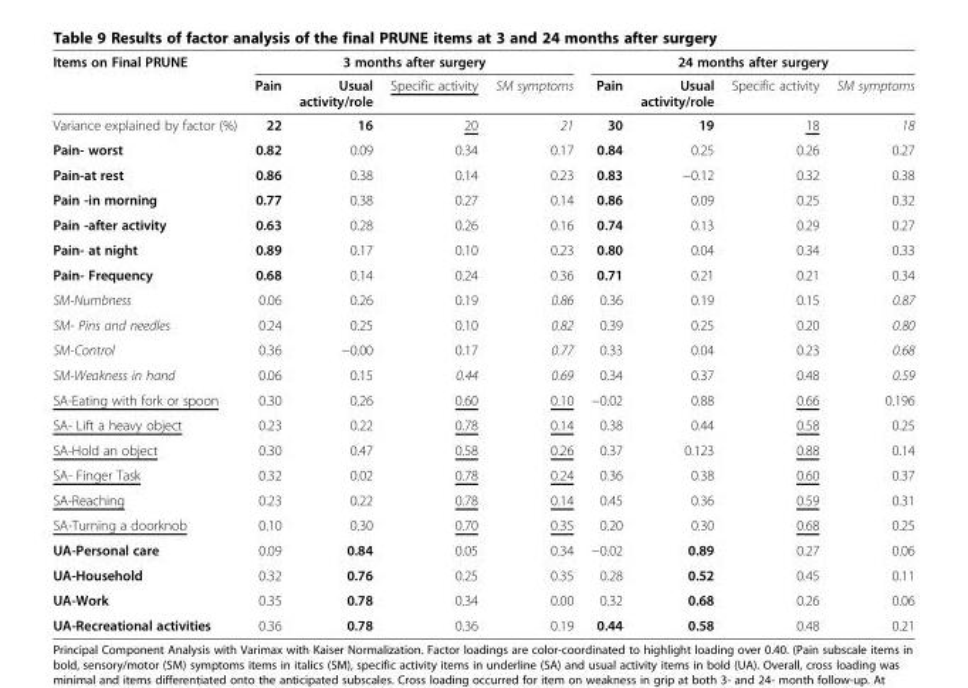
<table><thead><tr><td rowspan="2">Items on Final PRUNE</td><td colspan="4">3 months after surgery</td><td colspan="4">24 months after surgery</td></tr><tr><td>Pain</td><td>Usual activity/role</td><td>Specific activity</td><td>SM symptoms</td><td>Pain</td><td>Usual activity/role</td><td>Specific activity</td><td>SM symptoms</td></tr></thead><tbody><tr><td>Variance explained by factor (%)</td><td>22</td><td>16</td><td>20</td><td>21</td><td>30</td><td>19</td><td>18</td><td>18</td></tr><tr><td>Pain- worst</td><td>0.82</td><td>0.09</td><td>0.34</td><td>0.17</td><td>0.84</td><td>0.25</td><td>0.26</td><td>0.27</td></tr><tr><td>Pain-at rest</td><td>0.86</td><td>0.38</td><td>0.14</td><td>0.23</td><td>0.83</td><td>−0.12</td><td>0.32</td><td>0.38</td></tr><tr><td>Pain -in morning</td><td>0.77</td><td>0.38</td><td>0.27</td><td>0.14</td><td>0.86</td><td>0.09</td><td>0.25</td><td>0.32</td></tr><tr><td>Pain -after activity</td><td>0.63</td><td>0.28</td><td>0.26</td><td>0.16</td><td>0.74</td><td>0.13</td><td>0.29</td><td>0.27</td></tr><tr><td>Pain- at night</td><td>0.89</td><td>0.17</td><td>0.10</td><td>0.23</td><td>0.80</td><td>0.04</td><td>0.34</td><td>0.33</td></tr><tr><td>Pain- Frequency</td><td>0.68</td><td>0.14</td><td>0.24</td><td>0.36</td><td>0.71</td><td>0.21</td><td>0.21</td><td>0.34</td></tr><tr><td>SM-Numbness</td><td>0.06</td><td>0.26</td><td>0.19</td><td>0.86</td><td>0.36</td><td>0.19</td><td>0.15</td><td>0.87</td></tr><tr><td>SM- Pins and needles</td><td>0.24</td><td>0.25</td><td>0.10</td><td>0.82</td><td>0.39</td><td>0.25</td><td>0.20</td><td>0.80</td></tr><tr><td>SM-Control</td><td>0.36</td><td>−0.00</td><td>0.17</td><td>0.77</td><td>0.33</td><td>0.04</td><td>0.23</td><td>0.68</td></tr><tr><td>SM-Weakness in hand</td><td>0.06</td><td>0.15</td><td>0.44</td><td>0.69</td><td>0.34</td><td>0.37</td><td>0.48</td><td>0.59</td></tr><tr><td>SA-Eating with fork or spoon</td><td>0.30</td><td>0.26</td><td>0.60</td><td>0.10</td><td>−0.02</td><td>0.88</td><td>0.66</td><td>0.196</td></tr><tr><td>SA- Lift a heavy object</td><td>0.23</td><td>0.22</td><td>0.78</td><td>0.14</td><td>0.38</td><td>0.44</td><td>0.58</td><td>0.25</td></tr><tr><td>SA-Hold an object</td><td>0.30</td><td>0.47</td><td>0.58</td><td>0.26</td><td>0.37</td><td>0.123</td><td>0.88</td><td>0.14</td></tr><tr><td>SA- Finger Task</td><td>0.32</td><td>0.02</td><td>0.78</td><td>0.24</td><td>0.36</td><td>0.38</td><td>0.60</td><td>0.37</td></tr><tr><td>SA-Reaching</td><td>0.23</td><td>0.22</td><td>0.78</td><td>0.14</td><td>0.45</td><td>0.36</td><td>0.59</td><td>0.31</td></tr><tr><td>SA-Turning a doorknob</td><td>0.10</td><td>0.30</td><td>0.70</td><td>0.35</td><td>0.20</td><td>0.30</td><td>0.68</td><td>0.25</td></tr><tr><td>UA-Personal care</td><td>0.09</td><td>0.84</td><td>0.05</td><td>0.34</td><td>−0.02</td><td>0.89</td><td>0.27</td><td>0.06</td></tr><tr><td>UA-Household</td><td>0.32</td><td>0.76</td><td>0.25</td><td>0.35</td><td>0.28</td><td>0.52</td><td>0.45</td><td>0.11</td></tr><tr><td>UA-Work</td><td>0.35</td><td>0.78</td><td>0.34</td><td>0.00</td><td>0.32</td><td>0.68</td><td>0.26</td><td>0.06</td></tr><tr><td>UA-Recreational activities</td><td>0.36</td><td>0.78</td><td>0.36</td><td>0.19</td><td>0.44</td><td>0.58</td><td>0.48</td><td>0.21</td></tr></tbody></table>